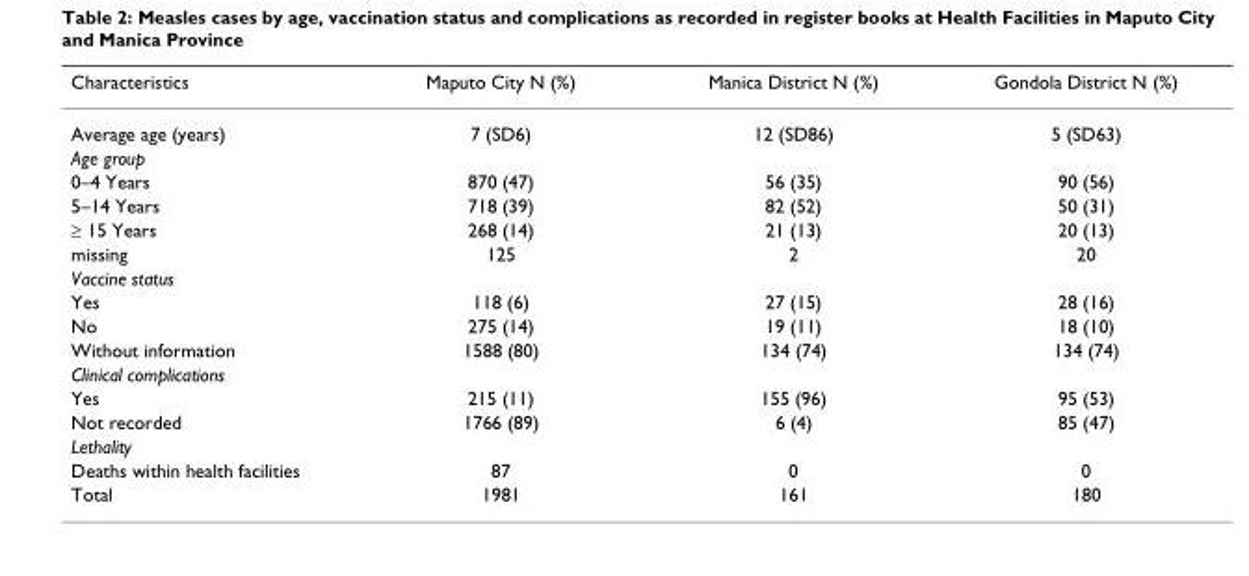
<table><thead><tr><td>Characteristics</td><td>Maputo City N (%)</td><td>Manica District N (%)</td><td>Gondola District N (%)</td></tr></thead><tbody><tr><td>Average age (years)</td><td>7 (SD6)</td><td>12 (SD86)</td><td>5 (SD63)</td></tr><tr><td colspan="4">Age group</td></tr><tr><td>0–4 Years</td><td>870 (47)</td><td>56 (35)</td><td>90 (56)</td></tr><tr><td>5–14 Years</td><td>718 (39)</td><td>82 (52)</td><td>50 (31)</td></tr><tr><td>≥ 15 Years</td><td>268 (14)</td><td>21 (13)</td><td>20 (13)</td></tr><tr><td>missing</td><td>125</td><td>2</td><td>20</td></tr><tr><td colspan="4">Vaccine status</td></tr><tr><td>Yes</td><td>118 (6)</td><td>27 (15)</td><td>28 (16)</td></tr><tr><td>No</td><td>275 (14)</td><td>19 (11)</td><td>18 (10)</td></tr><tr><td>Without information</td><td>1588 (80)</td><td>134 (74)</td><td>134 (74)</td></tr><tr><td colspan="4">Clinical complications</td></tr><tr><td>Yes</td><td>215 (11)</td><td>155 (96)</td><td>95 (53)</td></tr><tr><td>Not recorded</td><td>1766 (89)</td><td>6 (4)</td><td>85 (47)</td></tr><tr><td colspan="4">Lethality</td></tr><tr><td>Deaths within health facilities</td><td>87</td><td>0</td><td>0</td></tr><tr><td>Total</td><td>1981</td><td>161</td><td>180</td></tr></tbody></table>